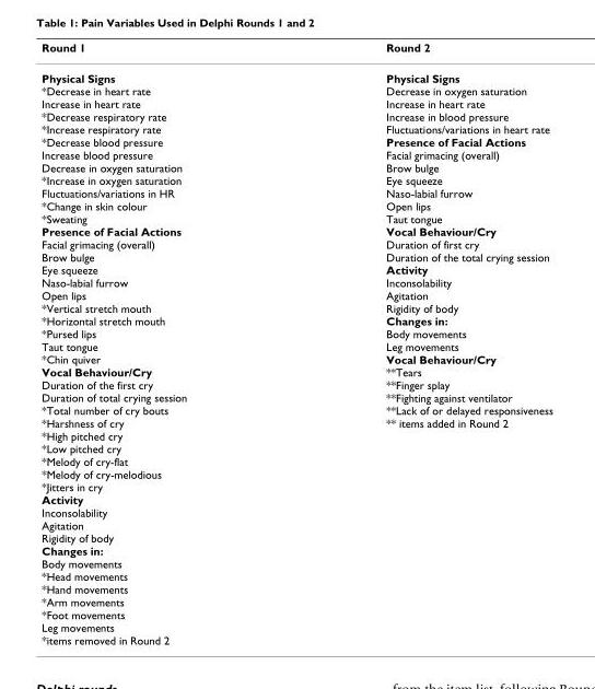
<table><thead><tr><td>Round 1</td><td>Round 2</td></tr></thead><tbody><tr><td>Physical Signs *Decrease in heart rate Increase in heart rate *Decrease respiratory rate *Increase respiratory rate *Decrease blood pressure Increase blood pressure Decrease in oxygen saturation *Increase in oxygen saturation Fluctuations/variations in HR *Change in skin colour *Sweating Presence of Facial Actions Facial grimacing (overall) Brow bulge Eye squeeze Naso-labial furrow Open lips *Vertical stretch mouth *Horizontal stretch mouth *Pursed lips Taut tongue *Chin quiver Vocal Behaviour/Cry Duration of the first cry Duration of total crying session *Total number of cry bouts *Harshness of cry *High pitched cry *Low pitched cry *Melody of cry-flat *Melody of cry-melodious *Jitters in cry Activity Inconsolability Agitation Rigidity of body Changes in: Body movements *Head movements *Hand movements *Arm movements *Foot movements Leg movements *items removed in Round 2</td><td>Physical Signs Decrease in oxygen saturation Increase in heart rate Increase in blood pressure Fluctuations/variations in heart rate Presence of Facial Actions Facial grimacing (overall) Brow bulge Eye squeeze Naso-labial furrow Open lips Taut tongue Vocal Behaviour/Cry Duration of first cry Duration of the total crying session Activity Inconsolability Agitation Rigidity of body Changes in: Body movements Leg movements Vocal Behaviour/Cry **Tears **Finger splay **Fighting against ventilator **Lack of or delayed responsiveness ** items added in Round 2</td></tr></tbody></table>